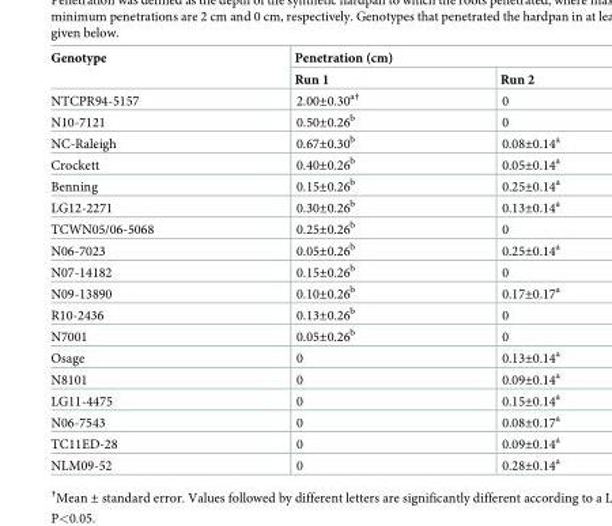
<table><thead><tr><td rowspan="2">Genotype</td><td colspan="2">Penetration (cm)</td></tr><tr><td>Run 1</td><td>Run 2</td></tr></thead><tbody><tr><td>NTCPR94-5157</td><td>2.00±0.30<sup>a†</sup></td><td>0</td></tr><tr><td>N10-7121</td><td>0.50±0.26<sup>b</sup></td><td>0</td></tr><tr><td>NC-Raleigh</td><td>0.67±0.30<sup>b</sup></td><td>0.08±0.14<sup>a</sup></td></tr><tr><td>Crockett</td><td>0.40±0.26<sup>b</sup></td><td>0.05±0.14<sup>a</sup></td></tr><tr><td>Benning</td><td>0.15±0.26<sup>b</sup></td><td>0.25±0.14<sup>a</sup></td></tr><tr><td>LG12-2271</td><td>0.30±0.26<sup>b</sup></td><td>0.13±0.14<sup>a</sup></td></tr><tr><td>TCWN05/06-5068</td><td>0.25±0.26<sup>b</sup></td><td>0</td></tr><tr><td>N06-7023</td><td>0.05±0.26<sup>b</sup></td><td>0.25±0.14<sup>a</sup></td></tr><tr><td>N07-14182</td><td>0.15±0.26<sup>b</sup></td><td>0</td></tr><tr><td>N09-13890</td><td>0.10±0.26<sup>b</sup></td><td>0.17±0.17<sup>a</sup></td></tr><tr><td>R10-2436</td><td>0.13±0.26<sup>b</sup></td><td>0</td></tr><tr><td>N7001</td><td>0.05±0.26<sup>b</sup></td><td>0</td></tr><tr><td>Osage</td><td>0</td><td>0.13±0.14<sup>a</sup></td></tr><tr><td>N8101</td><td>0</td><td>0.09±0.14<sup>a</sup></td></tr><tr><td>LG11-4475</td><td>0</td><td>0.15±0.14<sup>a</sup></td></tr><tr><td>N06-7543</td><td>0</td><td>0.08±0.17<sup>a</sup></td></tr><tr><td>TC11ED-28</td><td>0</td><td>0.09±0.14<sup>a</sup></td></tr><tr><td>NLM09-52</td><td>0</td><td>0.28±0.14<sup>a</sup></td></tr></tbody></table>